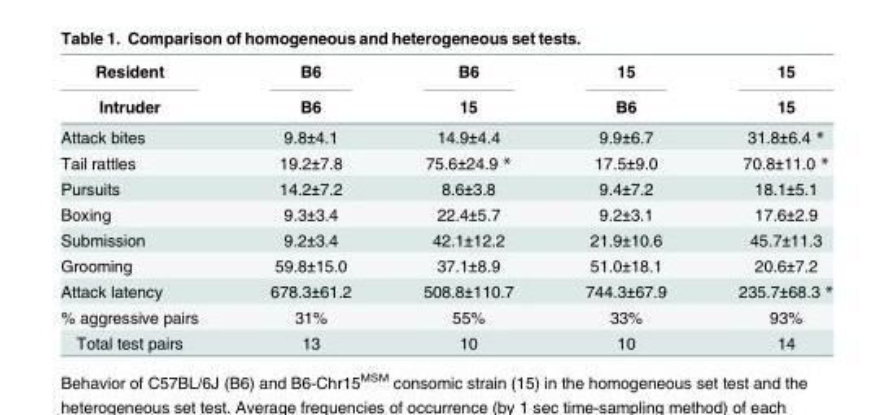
<table><thead><tr><td rowspan="2">Resident Intruder</td><td rowspan="2">B6 B6</td><td rowspan="2">B6 15</td><td rowspan="2">15 B6</td><td rowspan="2">15 15</td></tr><tr></tr></thead><tbody><tr><td>Attack bites</td><td>9.8±4.1</td><td>14.9±4.4</td><td>9.9±6.7</td><td>31.8±6.4 *</td></tr><tr><td>Tail rattles</td><td>19.2±7.8</td><td>75.6±24.9 *</td><td>17.5±9.0</td><td>70.8±11.0 *</td></tr><tr><td>Pursuits</td><td>14.2±7.2</td><td>8.6±3.8</td><td>9.4±7.2</td><td>18.1±5.1</td></tr><tr><td>Boxing</td><td>9.3±3.4</td><td>22.4±5.7</td><td>9.2±3.1</td><td>17.6±2.9</td></tr><tr><td>Submission</td><td>9.2±3.4</td><td>42.1±12.2</td><td>21.9±10.6</td><td>45.7±11.3</td></tr><tr><td>Grooming</td><td>59.8±15.0</td><td>37.1±8.9</td><td>51.0±18.1</td><td>20.6±7.2</td></tr><tr><td>Attack latency</td><td>678.3±61.2</td><td>508.8±110.7</td><td>744.3±67.9</td><td>235.7±68.3 *</td></tr><tr><td>% aggressive pairs</td><td>31%</td><td>55%</td><td>33%</td><td>93%</td></tr><tr><td>Total test pairs</td><td>13</td><td>10</td><td>10</td><td>14</td></tr></tbody></table>